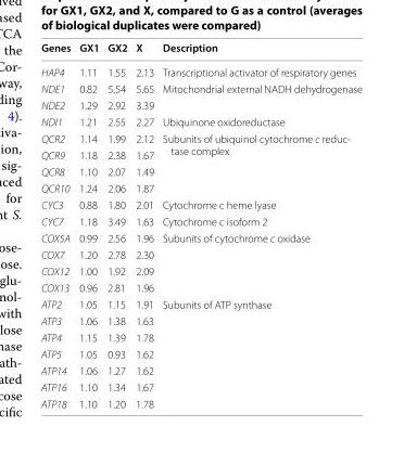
<table><thead><tr><td>Genes</td><td>GX1</td><td>GX2</td><td>X</td><td>Description</td></tr></thead><tbody><tr><td>HAP4</td><td>1.11</td><td>1.55</td><td>2.13</td><td>Transcriptional activator of respiratory genes</td></tr><tr><td>NDE1</td><td>0.82</td><td>5.54</td><td>5.65</td><td rowspan="2">Mitochondrial external NADH dehydrogenase</td></tr><tr><td>NDE2</td><td>1.29</td><td>2.92</td><td>3.39</td></tr><tr><td>NDI1</td><td>1.21</td><td>2.55</td><td>2.27</td><td>Ubiquinone oxidoreductase</td></tr><tr><td>QCR2</td><td>1.14</td><td>1.99</td><td>2.12</td><td rowspan="4">Subunits of ubiquinol cytochrome c reduc‑ tase complex</td></tr><tr><td>QCR9</td><td>1.18</td><td>2.38</td><td>1.67</td></tr><tr><td>QCR8</td><td>1.10</td><td>2.07</td><td>1.49</td></tr><tr><td>QCR10</td><td>1.24</td><td>2.06</td><td>1.87</td></tr><tr><td>CYC3</td><td>0.88</td><td>1.80</td><td>2.01</td><td>Cytochrome c heme lyase</td></tr><tr><td>CYC7</td><td>1.18</td><td>3.49</td><td>1.63</td><td>Cytochrome c isoform 2</td></tr><tr><td>COX5A</td><td>0.99</td><td>2.56</td><td>1.96</td><td rowspan="4">Subunits of cytochrome c oxidase</td></tr><tr><td>COX7</td><td>1.20</td><td>2.78</td><td>2.30</td></tr><tr><td>COX12</td><td>1.00</td><td>1.92</td><td>2.09</td></tr><tr><td>COX13</td><td>0.96</td><td>2.81</td><td>1.96</td></tr><tr><td>ATP2</td><td>1.05</td><td>1.15</td><td>1.91</td><td rowspan="7">Subunits of ATP synthase</td></tr><tr><td>ATP3</td><td>1.06</td><td>1.38</td><td>1.63</td></tr><tr><td>ATP4</td><td>1.15</td><td>1.39</td><td>1.78</td></tr><tr><td>ATP5</td><td>1.05</td><td>0.93</td><td>1.62</td></tr><tr><td>ATP14</td><td>1.06</td><td>1.27</td><td>1.62</td></tr><tr><td>ATP16</td><td>1.10</td><td>1.34</td><td>1.67</td></tr><tr><td>ATP18</td><td>1.10</td><td>1.20</td><td>1.78</td></tr></tbody></table>